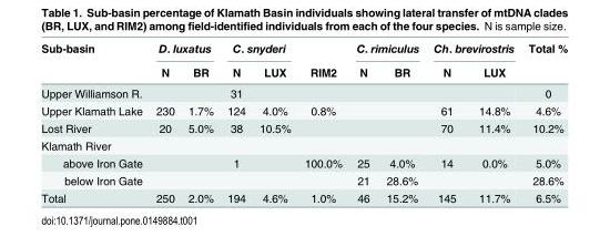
<table><thead><tr><td rowspan="2">Sub-basin</td><td colspan="2">D. luxatus</td><td colspan="2">C. snyderi</td><td rowspan="2">RIM2</td><td colspan="2">C. rimiculus</td><td colspan="2">Ch. brevirostris</td><td rowspan="2">Total %</td></tr><tr><td>N</td><td>BR</td><td>N</td><td>LUX</td><td>N</td><td>BR</td><td>N</td><td>LUX</td></tr></thead><tbody><tr><td>Upper Williamson R.</td><td></td><td></td><td>31</td><td></td><td></td><td></td><td></td><td></td><td></td><td>0</td></tr><tr><td>Upper Klamath Lake</td><td>230</td><td>1.7%</td><td>124</td><td>4.0%</td><td>0.8%</td><td></td><td></td><td>61</td><td>14.8%</td><td>4.6%</td></tr><tr><td>Lost River</td><td>20</td><td>5.0%</td><td>38</td><td>10.5%</td><td></td><td></td><td></td><td>70</td><td>11.4%</td><td>10.2%</td></tr><tr><td colspan="11">Klamath River</td></tr><tr><td>above Iron Gate</td><td></td><td></td><td>1</td><td></td><td>100.0%</td><td>25</td><td>4.0%</td><td>14</td><td>0.0%</td><td>5.0%</td></tr><tr><td>below Iron Gate</td><td></td><td></td><td></td><td></td><td></td><td>21</td><td>28.6%</td><td></td><td></td><td>28.6%</td></tr><tr><td>Total</td><td>250</td><td>2.0%</td><td>194</td><td>4.6%</td><td>1.0%</td><td>46</td><td>15.2%</td><td>145</td><td>11.7%</td><td>6.5%</td></tr></tbody></table>